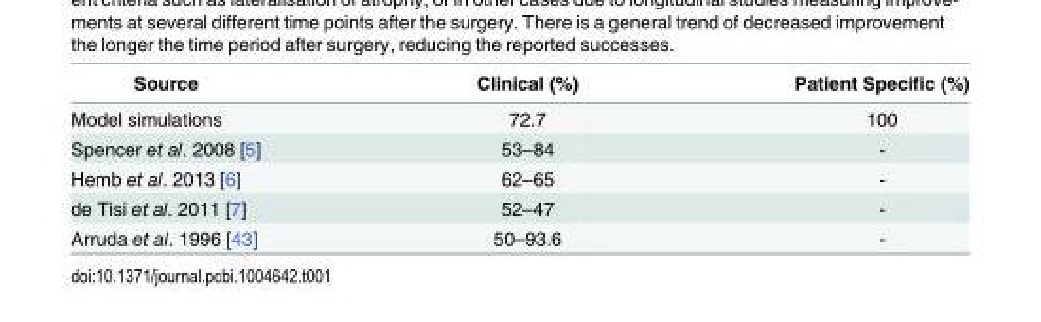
<table><thead><tr><td>Source</td><td>Clinical (%)</td><td>Patient Specific (%)</td></tr></thead><tbody><tr><td>Model simulations</td><td>72.7</td><td>100</td></tr><tr><td>Spencer et al. 2008 [5]</td><td>53–84</td><td>-</td></tr><tr><td>Hemb et al. 2013 [6]</td><td>62–65</td><td>-</td></tr><tr><td>de Tisi et al. 2011 [7]</td><td>52–47</td><td>-</td></tr><tr><td>Arruda et al. 1996 [43]</td><td>50–93.6</td><td>-</td></tr></tbody></table>